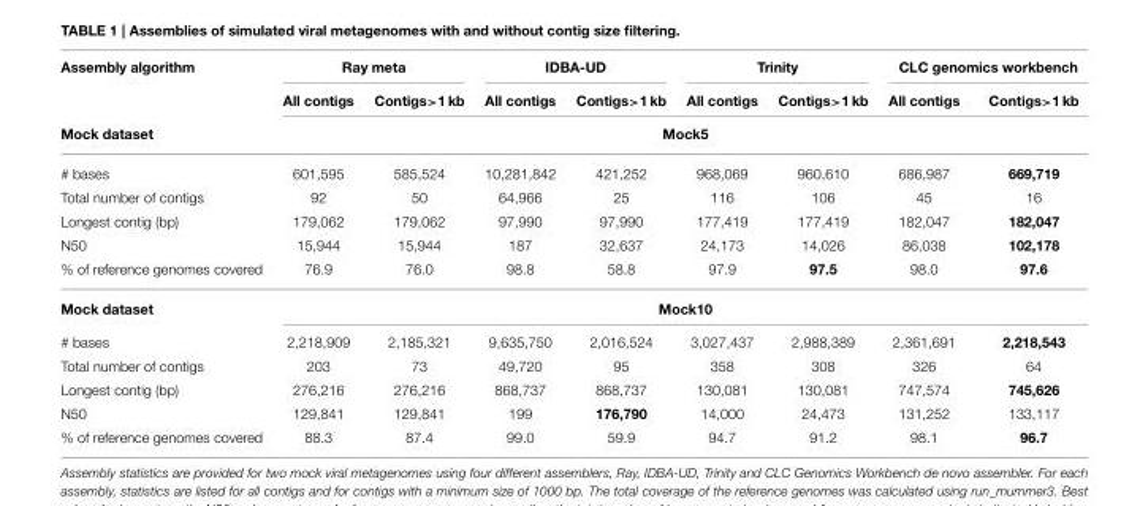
<table><thead><tr><td rowspan="3">Assembly algorithm Mock dataset</td><td colspan="2">Ray meta</td><td colspan="2">IDBA-UD</td><td colspan="2">Trinity</td><td colspan="2">CLC genomics workbench</td></tr><tr><td>All contigs</td><td>Contigs&gt;1 kb</td><td>All contigs</td><td>Contigs&gt;1 kb</td><td>All contigs</td><td>Contigs&gt;1 kb</td><td>All contigs</td><td>Contigs&gt;1 kb</td></tr><tr><td colspan="8">Mock5</td></tr></thead><tbody><tr><td># bases</td><td>601,595</td><td>585,524</td><td>10,281,842</td><td>421,252</td><td>968,069</td><td>960,610</td><td>686,987</td><td>669,719</td></tr><tr><td>Total number of contigs</td><td>92</td><td>50</td><td>64,966</td><td>25</td><td>116</td><td>106</td><td>45</td><td>16</td></tr><tr><td>Longest contig (bp)</td><td>179,062</td><td>179,062</td><td>97,990</td><td>97,990</td><td>177,419</td><td>177,419</td><td>182,047</td><td>182,047</td></tr><tr><td>N50</td><td>15,944</td><td>15,944</td><td>187</td><td>32,637</td><td>24,173</td><td>14,026</td><td>86,038</td><td>102,178</td></tr><tr><td>% of reference genomes covered</td><td>76.9</td><td>76.0</td><td>98.8</td><td>58.8</td><td>97.9</td><td>97.5</td><td>98.0</td><td>97.6</td></tr><tr><td>Mock dataset</td><td colspan="8">Mock10</td></tr><tr><td># bases</td><td>2,218,909</td><td>2,185,321</td><td>9,635,750</td><td>2,016,524</td><td>3,027,437</td><td>2,988,389</td><td>2,361,691</td><td>2,218,543</td></tr><tr><td>Total number of contigs</td><td>203</td><td>73</td><td>49,720</td><td>95</td><td>358</td><td>308</td><td>326</td><td>64</td></tr><tr><td>Longest contig (bp)</td><td>276,216</td><td>276,216</td><td>868,737</td><td>868,737</td><td>130,081</td><td>130,081</td><td>747,574</td><td>745,626</td></tr><tr><td>N50</td><td>129,841</td><td>129,841</td><td>199</td><td>176,790</td><td>14,000</td><td>24,473</td><td>131,252</td><td>133,117</td></tr><tr><td>% of reference genomes covered</td><td>88.3</td><td>87.4</td><td>99.0</td><td>59.9</td><td>94.7</td><td>91.2</td><td>98.1</td><td>96.7</td></tr></tbody></table>